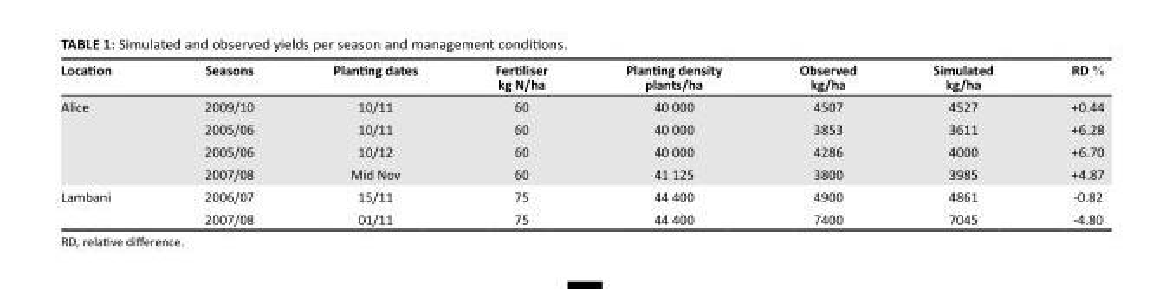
<table><thead><tr><td>Location</td><td>Seasons</td><td>Planting dates</td><td>Fertiliser kg N/ha</td><td>Planting density plants/ha</td><td>Observed kg/ha</td><td>Simulated kg/ha</td><td>RD %</td></tr></thead><tbody><tr><td rowspan="4">Alice</td><td>2009/10</td><td>10/11</td><td>60</td><td>40 000</td><td>4507</td><td>4527</td><td>+0.44</td></tr><tr><td>2005/06</td><td>10/11</td><td>60</td><td>40 000</td><td>3853</td><td>3611</td><td>+6.28</td></tr><tr><td>2005/06</td><td>10/12</td><td>60</td><td>40 000</td><td>4286</td><td>4000</td><td>+6.70</td></tr><tr><td>2007/08</td><td>Mid Nov</td><td>60</td><td>41 125</td><td>3800</td><td>3985</td><td>+4.87</td></tr><tr><td rowspan="2">Lambani</td><td>2006/07</td><td>15/11</td><td>75</td><td>44 400</td><td>4900</td><td>4861</td><td>-0.82</td></tr><tr><td>2007/08</td><td>01/11</td><td>75</td><td>44 400</td><td>7400</td><td>7045</td><td>-4.80</td></tr></tbody></table>